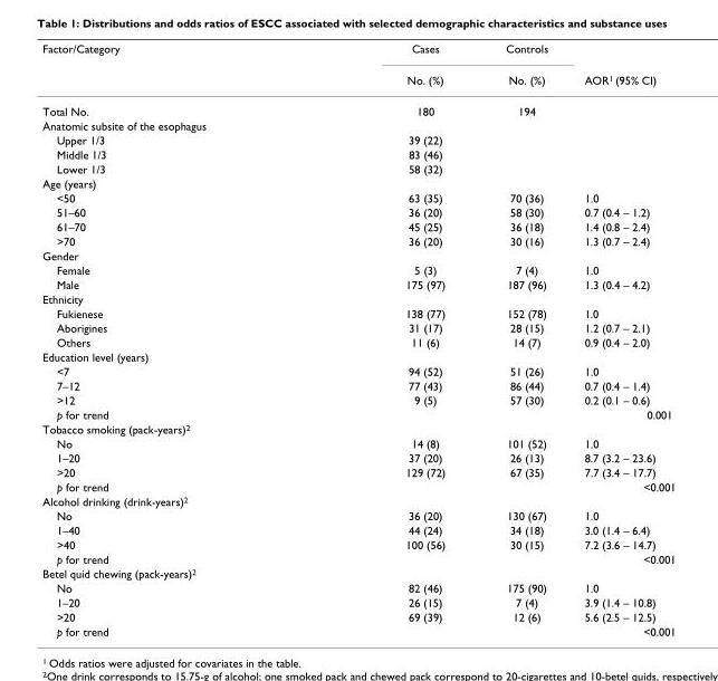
<table><thead><tr><td rowspan="2">Factor/Category</td><td rowspan="2">Cases No. (%)</td><td rowspan="2">Controls No. (%)</td><td rowspan="2">AOR<sup>1</sup> (95% CI)</td></tr><tr></tr></thead><tbody><tr><td>Total No.</td><td>180</td><td>194</td><td></td></tr><tr><td colspan="4">Anatomic subsite of the esophagus</td></tr><tr><td>Upper 1/3</td><td>39 (22)</td><td></td><td></td></tr><tr><td>Middle 1/3</td><td>83 (46)</td><td></td><td></td></tr><tr><td>Lower 1/3</td><td>58 (32)</td><td></td><td></td></tr><tr><td colspan="4">Age (years)</td></tr><tr><td>&lt;50</td><td>63 (35)</td><td>70 (36)</td><td>1.0</td></tr><tr><td>51–60</td><td>36 (20)</td><td>58 (30)</td><td>0.7 (0.4 – 1.2)</td></tr><tr><td>61–70</td><td>45 (25)</td><td>36 (18)</td><td>1.4 (0.8 – 2.4)</td></tr><tr><td>&gt;70</td><td>36 (20)</td><td>30 (16)</td><td>1.3 (0.7 – 2.4)</td></tr><tr><td colspan="4">Gender</td></tr><tr><td>Female</td><td>5 (3)</td><td>7 (4)</td><td>1.0</td></tr><tr><td>Male</td><td>175 (97)</td><td>187 (96)</td><td>1.3 (0.4 – 4.2)</td></tr><tr><td colspan="4">Ethnicity</td></tr><tr><td>Fukienese</td><td>138 (77)</td><td>152 (78)</td><td>1.0</td></tr><tr><td>Aborigines</td><td>31 (17)</td><td>28 (15)</td><td>1.2 (0.7 – 2.1)</td></tr><tr><td>Others</td><td>11 (6)</td><td>14 (7)</td><td>0.9 (0.4 – 2.0)</td></tr><tr><td colspan="4">Education level (years)</td></tr><tr><td>&lt;7</td><td>94 (52)</td><td>51 (26)</td><td>1.0</td></tr><tr><td>7–12</td><td>77 (43)</td><td>86 (44)</td><td>0.7 (0.4 – 1.4)</td></tr><tr><td>&gt;12</td><td>9 (5)</td><td>57 (30)</td><td>0.2 (0.1 – 0.6)</td></tr><tr><td>p for trend</td><td></td><td></td><td>0.001</td></tr><tr><td colspan="4">Tobacco smoking (pack-years)<sup>2</sup></td></tr><tr><td>No</td><td>14 (8)</td><td>101 (52)</td><td>1.0</td></tr><tr><td>1–20</td><td>37 (20)</td><td>26 (13)</td><td>8.7 (3.2 – 23.6)</td></tr><tr><td>&gt;20</td><td>129 (72)</td><td>67 (35)</td><td>7.7 (3.4 – 17.7)</td></tr><tr><td>p for trend</td><td></td><td></td><td>&lt;0.001</td></tr><tr><td colspan="4">Alcohol drinking (drink-years)<sup>2</sup></td></tr><tr><td>No</td><td>36 (20)</td><td>130 (67)</td><td>1.0</td></tr><tr><td>1–40</td><td>44 (24)</td><td>34 (18)</td><td>3.0 (1.4 – 6.4)</td></tr><tr><td>&gt;40</td><td>100 (56)</td><td>30 (15)</td><td>7.2 (3.6 – 14.7)</td></tr><tr><td>p for trend</td><td></td><td></td><td>&lt;0.001</td></tr><tr><td colspan="4">Betel quid chewing (pack-years)<sup>2</sup></td></tr><tr><td>No</td><td>82 (46)</td><td>175 (90)</td><td>1.0</td></tr><tr><td>1–20</td><td>26 (15)</td><td>7 (4)</td><td>3.9 (1.4 – 10.8)</td></tr><tr><td>&gt;20</td><td>69 (39)</td><td>12 (6)</td><td>5.6 (2.5 – 12.5)</td></tr><tr><td>p for trend</td><td></td><td></td><td>&lt;0.001</td></tr></tbody></table>